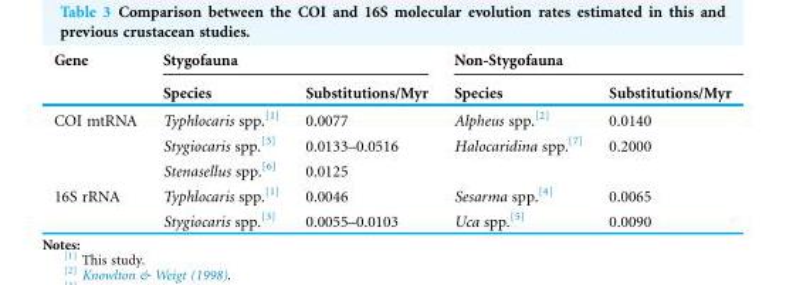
<table><thead><tr><td rowspan="2">Gene</td><td colspan="2">Stygofauna</td><td colspan="2">Non-Stygofauna</td></tr><tr><td>Species</td><td>Substitutions/Myr</td><td>Species</td><td>Substitutions/Myr</td></tr></thead><tbody><tr><td rowspan="3">COI mtRNA</td><td>Typhlocaris spp.<sup>[1]</sup></td><td>0.0077</td><td>Alpheus spp.<sup>[2]</sup></td><td>0.0140</td></tr><tr><td>Stygiocaris spp.<sup>[3]</sup></td><td>0.0133–0.0516</td><td>Halocaridina spp.<sup>[7]</sup></td><td>0.2000</td></tr><tr><td>Stenasellus spp.<sup>[6]</sup></td><td>0.0125</td><td></td><td></td></tr><tr><td rowspan="2">16S rRNA</td><td>Typhlocaris spp.<sup>[1]</sup></td><td>0.0046</td><td>Sesarma spp.<sup>[4]</sup></td><td>0.0065</td></tr><tr><td>Stygiocaris spp.<sup>[3]</sup></td><td>0.0055–0.0103</td><td>Uca spp.<sup>[5]</sup></td><td>0.0090</td></tr></tbody></table>